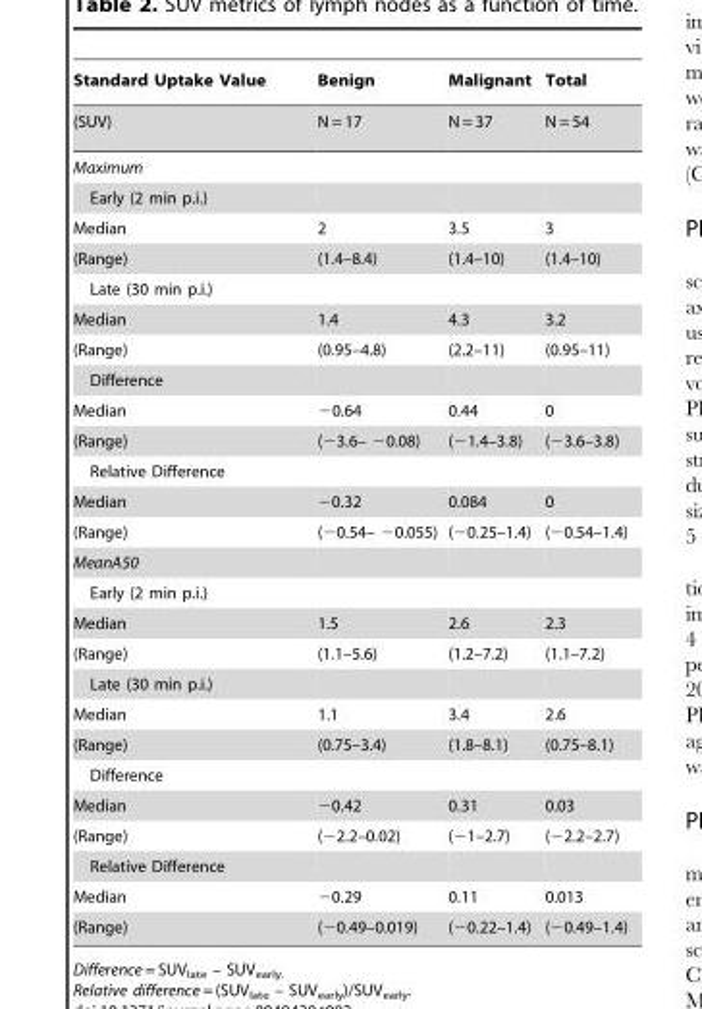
<table><thead><tr><td>Standard Uptake Value</td><td>Benign</td><td>Malignant</td><td>Total</td></tr></thead><tbody><tr><td>(SUV)</td><td>N = 17</td><td>N = 37</td><td>N = 54</td></tr><tr><td colspan="4">Maximum</td></tr><tr><td colspan="4">Early (2 min p.i.)</td></tr><tr><td>Median</td><td>2</td><td>3.5</td><td>3</td></tr><tr><td>(Range)</td><td>(1.4–8.4)</td><td>(1.4–10)</td><td>(1.4–10)</td></tr><tr><td colspan="4">Late (30 min p.i.)</td></tr><tr><td>Median</td><td>1.4</td><td>4.3</td><td>3.2</td></tr><tr><td>(Range)</td><td>(0.95–4.8)</td><td>(2.2–11)</td><td>(0.95–11)</td></tr><tr><td colspan="4">Difference</td></tr><tr><td>Median</td><td>−0.64</td><td>0.44</td><td>0</td></tr><tr><td>(Range)</td><td>(−3.6– −0.08)</td><td>(−1.4–3.8)</td><td>(−3.6–3.8)</td></tr><tr><td colspan="4">Relative Difference</td></tr><tr><td>Median</td><td>−0.32</td><td>0.084</td><td>0</td></tr><tr><td>(Range)</td><td>(−0.54– −0.055)</td><td>(−0.25–1.4)</td><td>(−0.54–1.4)</td></tr><tr><td colspan="4">MeanA50</td></tr><tr><td colspan="4">Early (2 min p.i.)</td></tr><tr><td>Median</td><td>1.5</td><td>2.6</td><td>2.3</td></tr><tr><td>(Range)</td><td>(1.1–5.6)</td><td>(1.2–7.2)</td><td>(1.1–7.2)</td></tr><tr><td colspan="4">Late (30 min p.i.)</td></tr><tr><td>Median</td><td>1.1</td><td>3.4</td><td>2.6</td></tr><tr><td>(Range)</td><td>(0.75–3.4)</td><td>(1.8–8.1)</td><td>(0.75–8.1)</td></tr><tr><td colspan="4">Difference</td></tr><tr><td>Median</td><td>−0.42</td><td>0.31</td><td>0.03</td></tr><tr><td>(Range)</td><td>(−2.2–0.02)</td><td>(−1–2.7)</td><td>(−2.2–2.7)</td></tr><tr><td colspan="4">Relative Difference</td></tr><tr><td>Median</td><td>−0.29</td><td>0.11</td><td>0.013</td></tr><tr><td>(Range)</td><td>(−0.49–0.019)</td><td>(−0.22–1.4)</td><td>(−0.49–1.4)</td></tr></tbody></table>